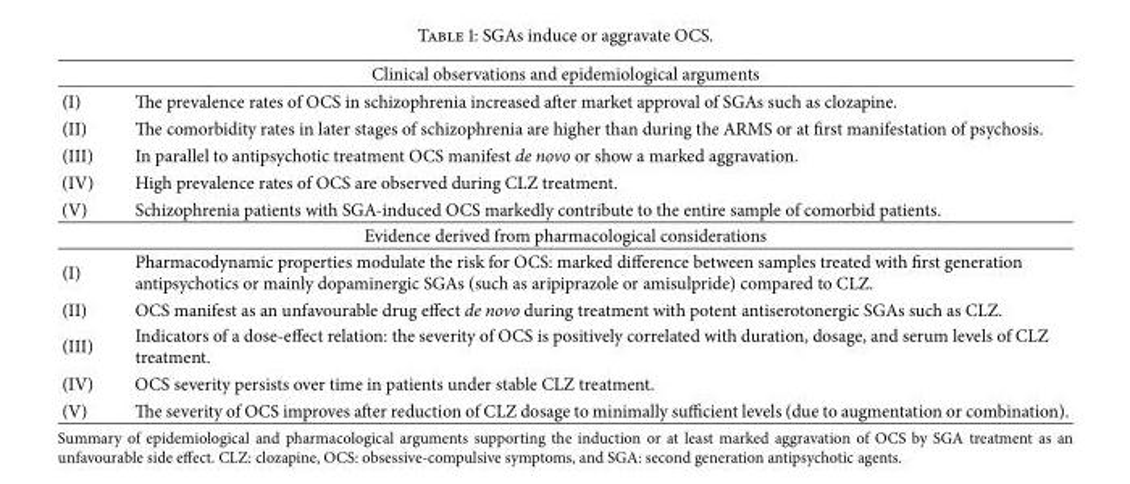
<table><thead><tr><td colspan="2">Clinical observations and epidemiological arguments</td></tr><tr><td>(I)</td><td>The prevalence rates of OCS in schizophrenia increased after market approval of SGAs such as clozapine.</td></tr></thead><tbody><tr><td>(II)</td><td>The comorbidity rates in later stages of schizophrenia are higher than during the ARMS or at first manifestation of psychosis.</td></tr><tr><td>(III)</td><td>In parallel to antipsychotic treatment OCS manifest de novo or show a marked aggravation.</td></tr><tr><td>(IV)</td><td>High prevalence rates of OCS are observed during CLZ treatment.</td></tr><tr><td>(V)</td><td>Schizophrenia patients with SGA-induced OCS markedly contribute to the entire sample of comorbid patients.</td></tr><tr><td colspan="2">Evidence derived from pharmacological considerations</td></tr><tr><td>(I)</td><td>Pharmacodynamic properties modulate the risk for OCS: marked difference between samples treated with first generation antipsychotics or mainly dopaminergic SGAs (such as aripiprazole or amisulpride) compared to CLZ.</td></tr><tr><td>(II)</td><td>OCS manifest as an unfavourable drug effect de novo during treatment with potent antiserotonergic SGAs such as CLZ.</td></tr><tr><td>(III)</td><td>Indicators of a dose-effect relation: the severity of OCS is positively correlated with duration, dosage, and serum levels of CLZ treatment.</td></tr><tr><td>(IV)</td><td>OCS severity persists over time in patients under stable CLZ treatment.</td></tr><tr><td>(V)</td><td>The severity of OCS improves after reduction of CLZ dosage to minimally sufficient levels (due to augmentation or combination).</td></tr></tbody></table>